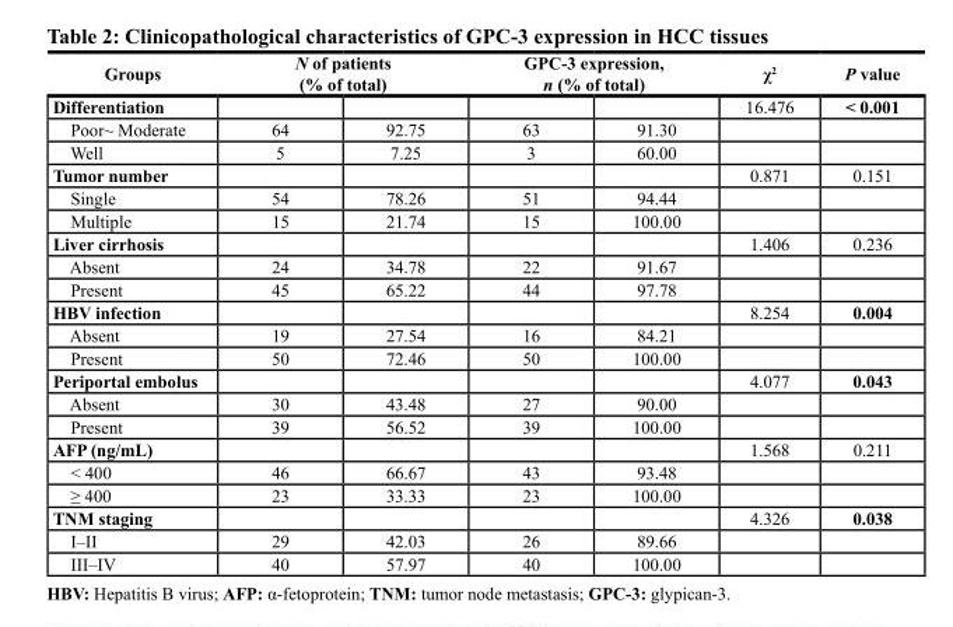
<table><thead><tr><td rowspan="2">Groups Differentiation</td><td colspan="2">N of patients (% of total)</td><td colspan="2">GPC-3 expression, n (% of total)</td><td rowspan="2">χ<sup>2</sup> 16.476</td><td rowspan="2">P value &lt; 0.001</td></tr><tr><td></td><td></td><td></td><td></td></tr></thead><tbody><tr><td>Poor~ Moderate</td><td>64</td><td>92.75</td><td>63</td><td>91.30</td><td></td><td></td></tr><tr><td>Well</td><td>5</td><td>7.25</td><td>3</td><td>60.00</td><td></td><td></td></tr><tr><td>Tumor number</td><td></td><td></td><td></td><td></td><td>0.871</td><td>0.151</td></tr><tr><td>Single</td><td>54</td><td>78.26</td><td>51</td><td>94.44</td><td></td><td></td></tr><tr><td>Multiple</td><td>15</td><td>21.74</td><td>15</td><td>100.00</td><td></td><td></td></tr><tr><td>Liver cirrhosis</td><td></td><td></td><td></td><td></td><td>1.406</td><td>0.236</td></tr><tr><td>Absent</td><td>24</td><td>34.78</td><td>22</td><td>91.67</td><td></td><td></td></tr><tr><td>Present</td><td>45</td><td>65.22</td><td>44</td><td>97.78</td><td></td><td></td></tr><tr><td>HBV infection</td><td></td><td></td><td></td><td></td><td>8.254</td><td>0.004</td></tr><tr><td>Absent</td><td>19</td><td>27.54</td><td>16</td><td>84.21</td><td></td><td></td></tr><tr><td>Present</td><td>50</td><td>72.46</td><td>50</td><td>100.00</td><td></td><td></td></tr><tr><td>Periportal embolus</td><td></td><td></td><td></td><td></td><td>4.077</td><td>0.043</td></tr><tr><td>Absent</td><td>30</td><td>43.48</td><td>27</td><td>90.00</td><td></td><td></td></tr><tr><td>Present</td><td>39</td><td>56.52</td><td>39</td><td>100.00</td><td></td><td></td></tr><tr><td>AFP (ng/mL)</td><td></td><td></td><td></td><td></td><td>1.568</td><td>0.211</td></tr><tr><td>&lt; 400</td><td>46</td><td>66.67</td><td>43</td><td>93.48</td><td></td><td></td></tr><tr><td>≥ 400</td><td>23</td><td>33.33</td><td>23</td><td>100.00</td><td></td><td></td></tr><tr><td>TNM staging</td><td></td><td></td><td></td><td></td><td>4.326</td><td>0.038</td></tr><tr><td>I–II</td><td>29</td><td>42.03</td><td>26</td><td>89.66</td><td></td><td></td></tr><tr><td>III–IV</td><td>40</td><td>57.97</td><td>40</td><td>100.00</td><td></td><td></td></tr></tbody></table>